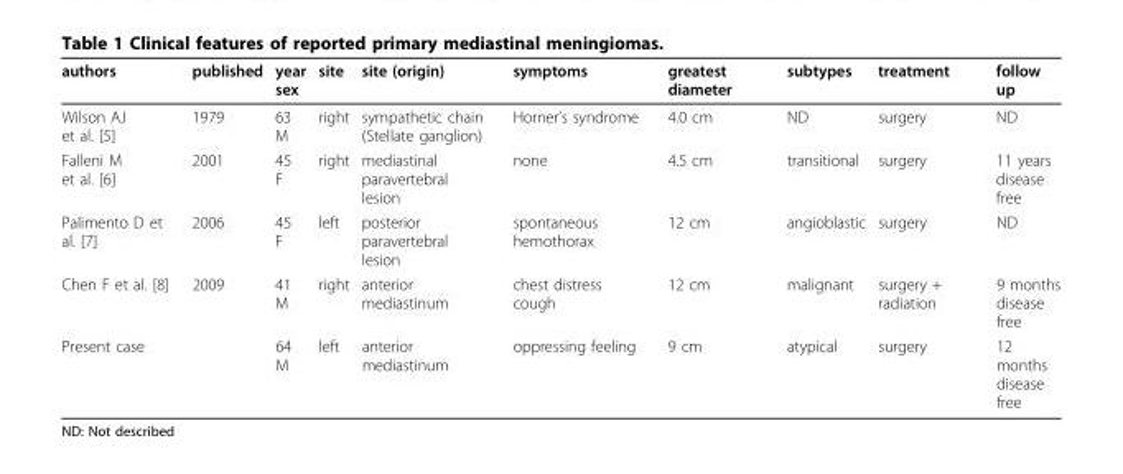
<table><thead><tr><td>authors</td><td>published</td><td>year sex</td><td>site</td><td>site (origin)</td><td>symptoms</td><td>greatest diameter</td><td>subtypes</td><td>treatment</td><td>follow up</td></tr></thead><tbody><tr><td>Wilson AJ et al. [5]</td><td>1979</td><td>63 M</td><td>right</td><td>sympathetic chain (Stellate ganglion)</td><td>Horner’s syndrome</td><td>4.0 cm</td><td>ND</td><td>surgery</td><td>ND</td></tr><tr><td>Falleni M et al. [6]</td><td>2001</td><td>45 F</td><td>right</td><td>mediastinal paravertebral lesion</td><td>none</td><td>4.5 cm</td><td>transitional</td><td>surgery</td><td>11 years disease free</td></tr><tr><td>Palimento D et al. [7]</td><td>2006</td><td>45 F</td><td>left</td><td>posterior paravertebral lesion</td><td>spontaneous hemothorax</td><td>12 cm</td><td>angioblastic</td><td>surgery</td><td>ND</td></tr><tr><td>Chen F et al. [8]</td><td>2009</td><td>41 M</td><td>right</td><td>anterior mediastinum</td><td>chest distress cough</td><td>12 cm</td><td>malignant</td><td>surgery + radiation</td><td>9 months disease free</td></tr><tr><td>Present case</td><td></td><td>64 M</td><td>left</td><td>anterior mediastinum</td><td>oppressing feeling</td><td>9 cm</td><td>atypical</td><td>surgery</td><td>12 months disease free</td></tr></tbody></table>